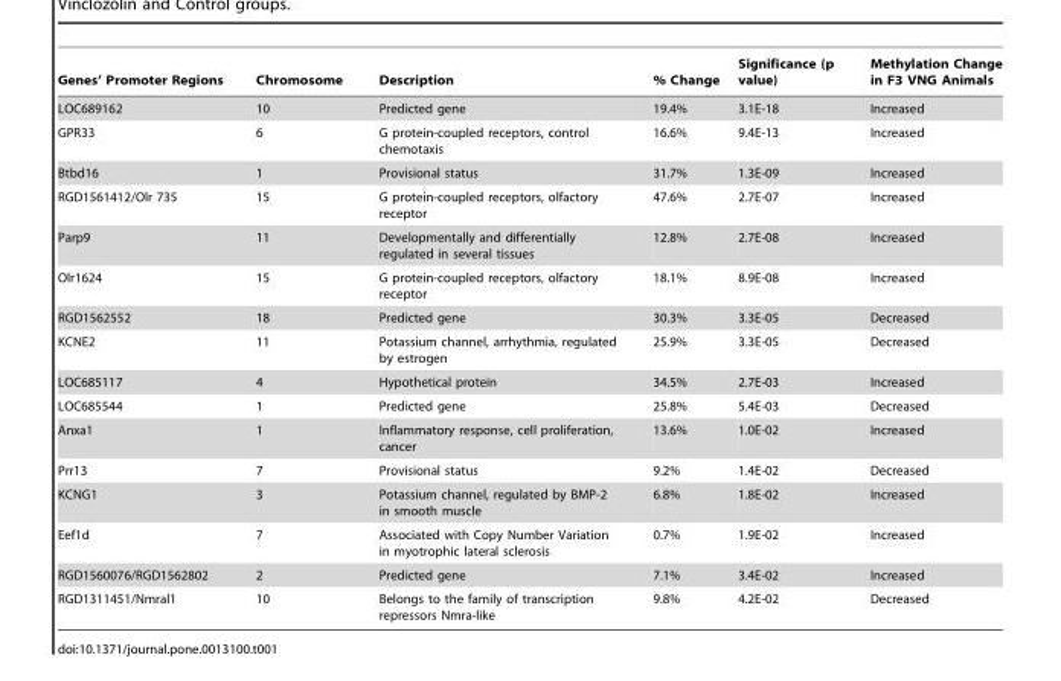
<table><thead><tr><td>Genes’ Promoter Regions</td><td>Chromosome</td><td>Description</td><td>% Change</td><td>Significance (p value)</td><td>Methylation Change in F3 VNG Animals</td></tr></thead><tbody><tr><td>LOC689162</td><td>10</td><td>Predicted gene</td><td>19.4%</td><td>3.1E-18</td><td>Increased</td></tr><tr><td>GPR33</td><td>6</td><td>G protein-coupled receptors, control chemotaxis</td><td>16.6%</td><td>9.4E-13</td><td>Increased</td></tr><tr><td>Btbd16</td><td>1</td><td>Provisional status</td><td>31.7%</td><td>1.3E-09</td><td>Increased</td></tr><tr><td>RGD1561412/Olr 735</td><td>15</td><td>G protein-coupled receptors, olfactory receptor</td><td>47.6%</td><td>2.7E-07</td><td>Increased</td></tr><tr><td>Parp9</td><td>11</td><td>Developmentally and differentially regulated in several tissues</td><td>12.8%</td><td>2.7E-08</td><td>Increased</td></tr><tr><td>Olr1624</td><td>15</td><td>G protein-coupled receptors, olfactory receptor</td><td>18.1%</td><td>8.9E-08</td><td>Increased</td></tr><tr><td>RGD1562552</td><td>18</td><td>Predicted gene</td><td>30.3%</td><td>3.3E-05</td><td>Decreased</td></tr><tr><td>KCNE2</td><td>11</td><td>Potassium channel, arrhythmia, regulated by estrogen</td><td>25.9%</td><td>3.3E-05</td><td>Decreased</td></tr><tr><td>LOC685117</td><td>4</td><td>Hypothetical protein</td><td>34.5%</td><td>2.7E-03</td><td>Increased</td></tr><tr><td>LOC685544</td><td>1</td><td>Predicted gene</td><td>25.8%</td><td>5.4E-03</td><td>Decreased</td></tr><tr><td>Anxa1</td><td>1</td><td>Inflammatory response, cell proliferation, cancer</td><td>13.6%</td><td>1.0E-02</td><td>Increased</td></tr><tr><td>Prr13</td><td>7</td><td>Provisional status</td><td>9.2%</td><td>1.4E-02</td><td>Decreased</td></tr><tr><td>KCNG1</td><td>3</td><td>Potassium channel, regulated by BMP-2 in smooth muscle</td><td>6.8%</td><td>1.8E-02</td><td>Increased</td></tr><tr><td>Eef1d</td><td>7</td><td>Associated with Copy Number Variation in myotrophic lateral sclerosis</td><td>0.7%</td><td>1.9E-02</td><td>Increased</td></tr><tr><td>RGD1560076/RGD1562802</td><td>2</td><td>Predicted gene</td><td>7.1%</td><td>3.4E-02</td><td>Increased</td></tr><tr><td>RGD1311451/Nmral1</td><td>10</td><td>Belongs to the family of transcription repressors Nmra-like</td><td>9.8%</td><td>4.2E-02</td><td>Decreased</td></tr></tbody></table>